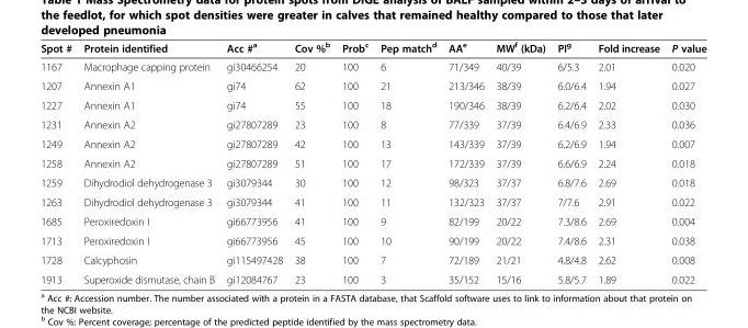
<table><thead><tr><td>Spot #</td><td>Protein identified</td><td>Acc #<sup>a</sup></td><td>Cov %<sup>b</sup></td><td>Prob<sup>c</sup></td><td>Pep match<sup>d</sup></td><td>AA<sup>e</sup></td><td>MW<sup>f</sup> (kDa)</td><td>PI<sup>g</sup></td><td>Fold increase</td><td>P value</td></tr></thead><tbody><tr><td>1167</td><td>Macrophage capping protein</td><td>gi30466254</td><td>20</td><td>100</td><td>6</td><td>71/349</td><td>40/39</td><td>6/5.3</td><td>2.01</td><td>0.020</td></tr><tr><td>1207</td><td>Annexin A1</td><td>gi74</td><td>62</td><td>100</td><td>21</td><td>213/346</td><td>38/39</td><td>6.0/6.4</td><td>1.94</td><td>0.027</td></tr><tr><td>1227</td><td>Annexin A1</td><td>gi74</td><td>55</td><td>100</td><td>18</td><td>190/346</td><td>38/39</td><td>6.2/6.4</td><td>2.02</td><td>0.030</td></tr><tr><td>1231</td><td>Annexin A2</td><td>gi27807289</td><td>23</td><td>100</td><td>8</td><td>77/339</td><td>37/39</td><td>6.4/6.9</td><td>2.33</td><td>0.036</td></tr><tr><td>1249</td><td>Annexin A2</td><td>gi27807289</td><td>42</td><td>100</td><td>13</td><td>143/339</td><td>37/39</td><td>6.2/6.9</td><td>1.94</td><td>0.007</td></tr><tr><td>1258</td><td>Annexin A2</td><td>gi27807289</td><td>51</td><td>100</td><td>17</td><td>172/339</td><td>37/39</td><td>6.6/6.9</td><td>2.24</td><td>0.018</td></tr><tr><td>1259</td><td>Dihydrodiol dehydrogenase 3</td><td>gi3079344</td><td>30</td><td>100</td><td>12</td><td>98/323</td><td>37/37</td><td>6.8/7.6</td><td>2.69</td><td>0.018</td></tr><tr><td>1263</td><td>Dihydrodiol dehydrogenase 3</td><td>gi3079344</td><td>41</td><td>100</td><td>11</td><td>132/323</td><td>37/37</td><td>7/7.6</td><td>2.91</td><td>0.022</td></tr><tr><td>1685</td><td>Peroxiredoxin I</td><td>gi66773956</td><td>41</td><td>100</td><td>9</td><td>82/199</td><td>20/22</td><td>7.3/8.6</td><td>2.69</td><td>0.004</td></tr><tr><td>1713</td><td>Peroxiredoxin I</td><td>gi66773956</td><td>45</td><td>100</td><td>10</td><td>90/199</td><td>20/22</td><td>7.4/8.6</td><td>2.31</td><td>0.038</td></tr><tr><td>1728</td><td>Calcyphosin</td><td>gi115497428</td><td>38</td><td>100</td><td>7</td><td>72/189</td><td>21/21</td><td>4.8/4.8</td><td>2.62</td><td>0.008</td></tr><tr><td>1913</td><td>Superoxide dismutase, chain B</td><td>gi12084767</td><td>23</td><td>100</td><td>3</td><td>35/152</td><td>15/16</td><td>5.8/5.7</td><td>1.89</td><td>0.022</td></tr></tbody></table>